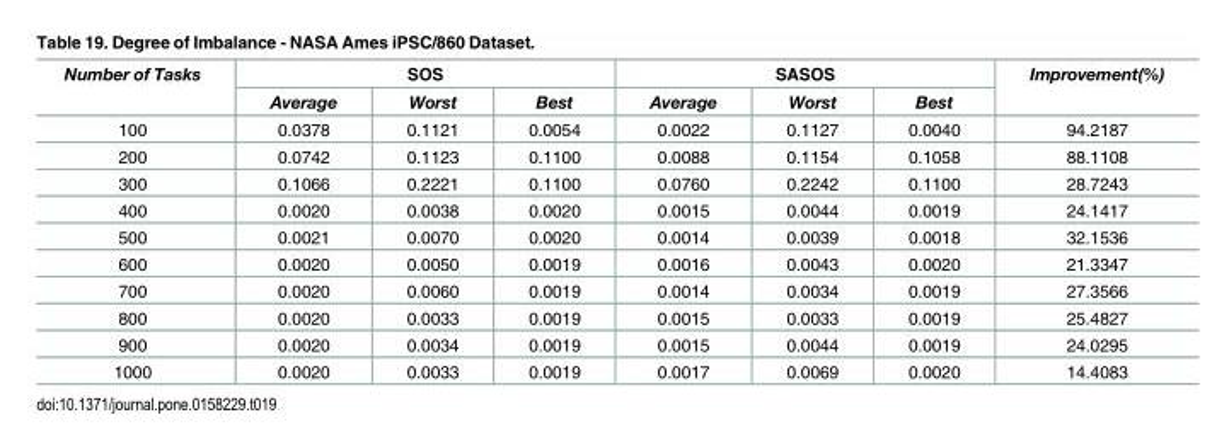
<table><thead><tr><td rowspan="2">Number of Tasks</td><td colspan="3">SOS</td><td colspan="3">SASOS</td><td rowspan="2">Improvement(%)</td></tr><tr><td>Average</td><td>Worst</td><td>Best</td><td>Average</td><td>Worst</td><td>Best</td></tr></thead><tbody><tr><td>100</td><td>0.0378</td><td>0.1121</td><td>0.0054</td><td>0.0022</td><td>0.1127</td><td>0.0040</td><td>94.2187</td></tr><tr><td>200</td><td>0.0742</td><td>0.1123</td><td>0.1100</td><td>0.0088</td><td>0.1154</td><td>0.1058</td><td>88.1108</td></tr><tr><td>300</td><td>0.1066</td><td>0.2221</td><td>0.1100</td><td>0.0760</td><td>0.2242</td><td>0.1100</td><td>28.7243</td></tr><tr><td>400</td><td>0.0020</td><td>0.0038</td><td>0.0020</td><td>0.0015</td><td>0.0044</td><td>0.0019</td><td>24.1417</td></tr><tr><td>500</td><td>0.0021</td><td>0.0070</td><td>0.0020</td><td>0.0014</td><td>0.0039</td><td>0.0018</td><td>32.1536</td></tr><tr><td>600</td><td>0.0020</td><td>0.0050</td><td>0.0019</td><td>0.0016</td><td>0.0043</td><td>0.0020</td><td>21.3347</td></tr><tr><td>700</td><td>0.0020</td><td>0.0060</td><td>0.0019</td><td>0.0014</td><td>0.0034</td><td>0.0019</td><td>27.3566</td></tr><tr><td>800</td><td>0.0020</td><td>0.0033</td><td>0.0019</td><td>0.0015</td><td>0.0033</td><td>0.0019</td><td>25.4827</td></tr><tr><td>900</td><td>0.0020</td><td>0.0034</td><td>0.0019</td><td>0.0015</td><td>0.0044</td><td>0.0019</td><td>24.0295</td></tr><tr><td>1000</td><td>0.0020</td><td>0.0033</td><td>0.0019</td><td>0.0017</td><td>0.0069</td><td>0.0020</td><td>14.4083</td></tr></tbody></table>